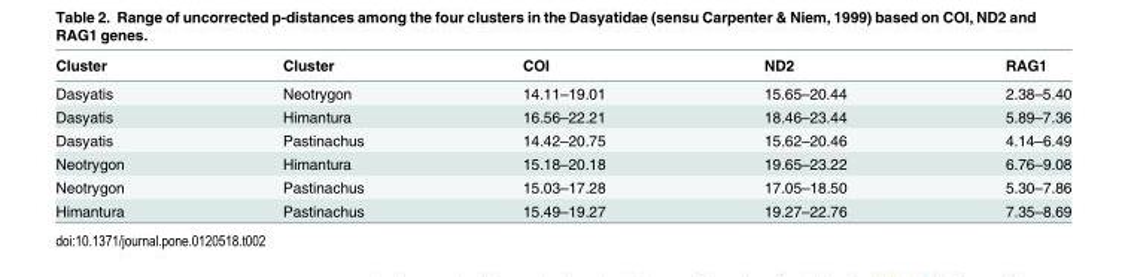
<table><thead><tr><td>Cluster</td><td>Cluster</td><td>COI</td><td>ND2</td><td>RAG1</td></tr></thead><tbody><tr><td>Dasyatis</td><td>Neotrygon</td><td>14.11–19.01</td><td>15.65–20.44</td><td>2.38–5.40</td></tr><tr><td>Dasyatis</td><td>Himantura</td><td>16.56–22.21</td><td>18.46–23.44</td><td>5.89–7.36</td></tr><tr><td>Dasyatis</td><td>Pastinachus</td><td>14.42–20.75</td><td>15.62–20.46</td><td>4.14–6.49</td></tr><tr><td>Neotrygon</td><td>Himantura</td><td>15.18–20.18</td><td>19.65–23.22</td><td>6.76–9.08</td></tr><tr><td>Neotrygon</td><td>Pastinachus</td><td>15.03–17.28</td><td>17.05–18.50</td><td>5.30–7.86</td></tr><tr><td>Himantura</td><td>Pastinachus</td><td>15.49–19.27</td><td>19.27–22.76</td><td>7.35–8.69</td></tr></tbody></table>